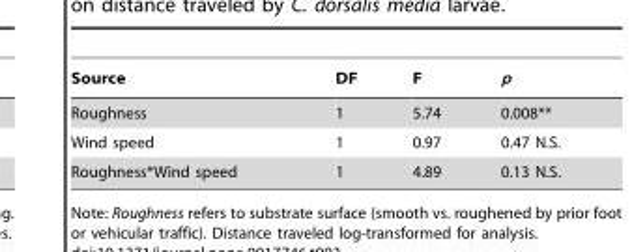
<table><thead><tr><td>Source</td><td>DF</td><td>F</td><td>p</td></tr></thead><tbody><tr><td>Roughness</td><td>1</td><td>5.74</td><td>0.008**</td></tr><tr><td>Wind speed</td><td>1</td><td>0.97</td><td>0.47 N.S.</td></tr><tr><td>Roughness*Wind speed</td><td>1</td><td>4.89</td><td>0.13 N.S.</td></tr></tbody></table>